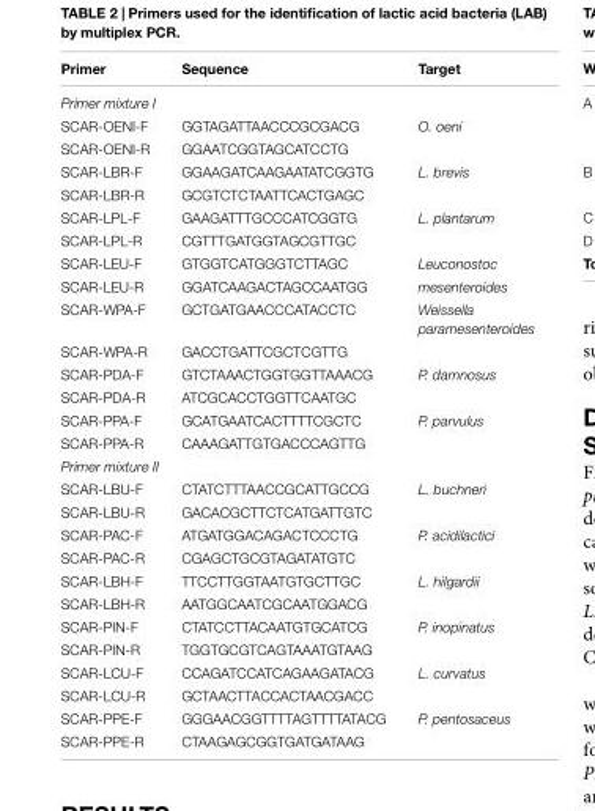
<table><thead><tr><td>Primer</td><td>Sequence</td><td>Target</td></tr></thead><tbody><tr><td colspan="3">Primer mixture I</td></tr><tr><td>SCAR-OENI-F</td><td>GGTAGATTAACCCGCGACG</td><td>O. oeni</td></tr><tr><td>SCAR-OENI-R</td><td>GGAATCGGTAGCATCCTG</td><td></td></tr><tr><td>SCAR-LBR-F</td><td>GGAAGATCAAGAATATCGGTG</td><td>L. brevis</td></tr><tr><td>SCAR-LBR-R</td><td>GCGTCTCTAATTCACTGAGC</td><td></td></tr><tr><td>SCAR-LPL-F</td><td>GAAGATTTGCCCATCGGTG</td><td>L. plantarum</td></tr><tr><td>SCAR-LPL-R</td><td>CGTTTGATGGTAGCGTTGC</td><td></td></tr><tr><td>SCAR-LEU-F</td><td>GTGGTCATGGGTCTTAGC</td><td>Leuconostoc</td></tr><tr><td>SCAR-LEU-R</td><td>GGATCAAGACTAGCCAATGG</td><td>mesenteroides</td></tr><tr><td>SCAR-WPA-F</td><td>GCTGATGAACCCATACCTC</td><td>Weissella paramesenteroides</td></tr><tr><td>SCAR-WPA-R</td><td>GACCTGATTCGCTCGTTG</td><td></td></tr><tr><td>SCAR-PDA-F</td><td>GTCTAAACTGGTGGTTAAACG</td><td>P. damnosus</td></tr><tr><td>SCAR-PDA-R</td><td>ATCGCACCTGGTTCAATGC</td><td></td></tr><tr><td>SCAR-PPA-F</td><td>GCATGAATCACTTTTCGCTC</td><td>P. parvulus</td></tr><tr><td>SCAR-PPA-R</td><td>CAAAGATTGTGACCCAGTTG</td><td></td></tr><tr><td colspan="3">Primer mixture II</td></tr><tr><td>SCAR-LBU-F</td><td>CTATCTTTAACCGCATTGCCG</td><td>L. buchneri</td></tr><tr><td>SCAR-LBU-R</td><td>GACACGCTTCTCATGATTGTC</td><td></td></tr><tr><td>SCAR-PAC-F</td><td>ATGATGGACAGACTCCCTG</td><td>P. acidilactici</td></tr><tr><td>SCAR-PAC-R</td><td>CGAGCTGCGTAGATATGTC</td><td></td></tr><tr><td>SCAR-LBH-F</td><td>TTCCTTGGTAATGTGCTTGC</td><td>L. hilgardii</td></tr><tr><td>SCAR-LBH-R</td><td>AATGGCAATCGCAATGGACG</td><td></td></tr><tr><td>SCAR-PIN-F</td><td>CTATCCTTACAATGTGCATCG</td><td>P. inopinatus</td></tr><tr><td>SCAR-PIN-R</td><td>TGGTGCGTCAGTAAATGTAAG</td><td></td></tr><tr><td>SCAR-LCU-F</td><td>CCAGATCCATCAGAAGATACG</td><td>L. curvatus</td></tr><tr><td>SCAR-LCU-R</td><td>GCTAACTTACCACTAACGACC</td><td></td></tr><tr><td>SCAR-PPE-F</td><td>GGGAACGGTTTTAGTTTTATACG</td><td>P. pentosaceus</td></tr><tr><td>SCAR-PPE-R</td><td>CTAAGAGCGGTGATGATAAG</td><td></td></tr></tbody></table>